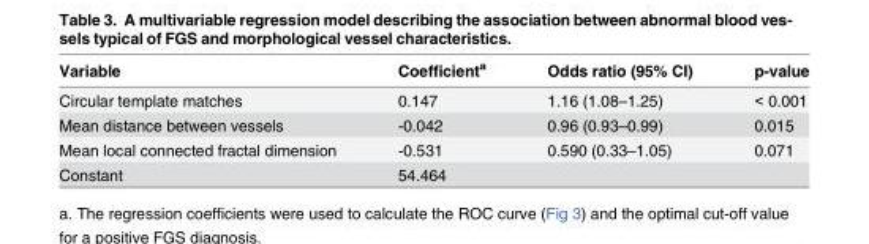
<table><thead><tr><td>Variable</td><td>Coefficient<sup>a</sup></td><td>Odds ratio (95% CI)</td><td>p-value</td></tr></thead><tbody><tr><td>Circular template matches</td><td>0.147</td><td>1.16 (1.08–1.25)</td><td>&lt; 0.001</td></tr><tr><td>Mean distance between vessels</td><td>-0.042</td><td>0.96 (0.93–0.99)</td><td>0.015</td></tr><tr><td>Mean local connected fractal dimension</td><td>-0.531</td><td>0.590 (0.33–1.05)</td><td>0.071</td></tr><tr><td>Constant</td><td>54.464</td><td></td><td></td></tr></tbody></table>